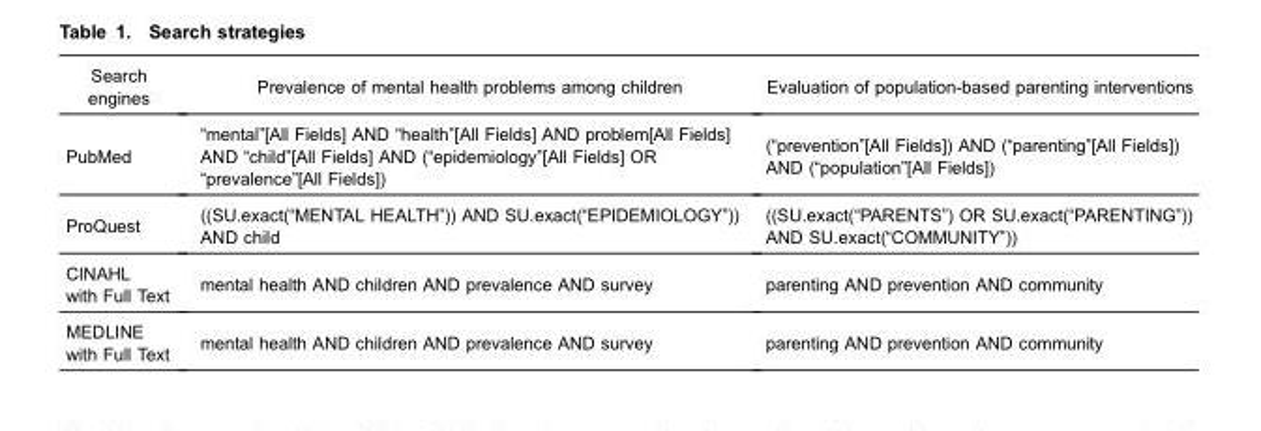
<table><thead><tr><td>Search engines</td><td>Prevalence of mental health problems among children</td><td>Evaluation of population-based parenting interventions</td></tr></thead><tbody><tr><td>PubMed</td><td>“mental”[All Fields] AND “health”[All Fields] AND problem[All Fields] AND “child”[All Fields] AND (“epidemiology”[All Fields] OR “prevalence”[All Fields])</td><td>(“prevention”[All Fields]) AND (“parenting”[All Fields]) AND (“population”[All Fields])</td></tr><tr><td>ProQuest</td><td>((SU.exact(“MENTAL HEALTH”)) AND SU.exact(“EPIDEMIOLOGY”)) AND child</td><td>((SU.exact(“PARENTS”) OR SU.exact(“PARENTING”)) AND SU.exact(“COMMUNITY”))</td></tr><tr><td>CINAHL with Full Text</td><td>mental health AND children AND prevalence AND survey</td><td>parenting AND prevention AND community</td></tr><tr><td>MEDLINE with Full Text</td><td>mental health AND children AND prevalence AND survey</td><td>parenting AND prevention AND community</td></tr></tbody></table>